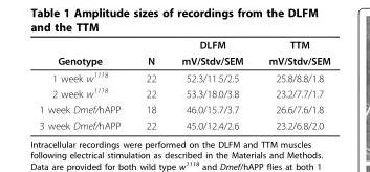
<table><thead><tr><td rowspan="2">Genotype</td><td rowspan="2">N</td><td rowspan="2">DLFM mV/Stdv/SEM</td><td rowspan="2">TTM mV/Stdv/SEM</td></tr><tr></tr></thead><tbody><tr><td>1 week w<sup>1118</sup></td><td>22</td><td>52.3/11.5/2.5</td><td>25.8/8.8/1.8</td></tr><tr><td>2 week w<sup>1118</sup></td><td>22</td><td>53.3/18.0/3.8</td><td>23.2/7.7/1.7</td></tr><tr><td>1 week Dmef/hAPP</td><td>18</td><td>46.0/15.7/3.7</td><td>26.6/7.6/1.8</td></tr><tr><td>3 week Dmef/hAPP</td><td>22</td><td>45.0/12.4/2.6</td><td>23.2/6.8/2.0</td></tr></tbody></table>